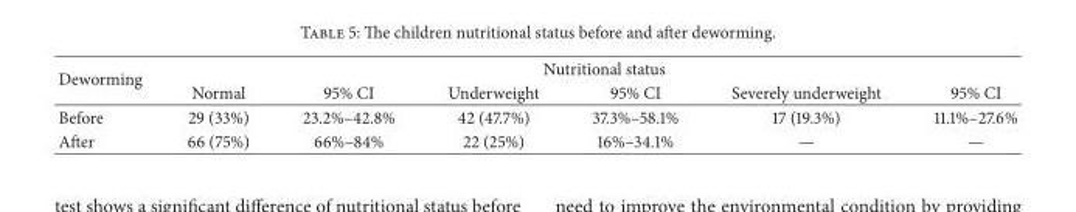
<table><thead><tr><td rowspan="2">Deworming</td><td colspan="6">Nutritional status</td></tr><tr><td>Normal</td><td>95% CI</td><td>Underweight</td><td>95% CI</td><td>Severely underweight</td><td>95% CI</td></tr></thead><tbody><tr><td>Before</td><td>29 (33%)</td><td>23.2%–42.8%</td><td>42 (47.7%)</td><td>37.3%–58.1%</td><td>17 (19.3%)</td><td>11.1%–27.6%</td></tr><tr><td>After</td><td>66 (75%)</td><td>66%–84%</td><td>22 (25%)</td><td>16%–34.1%</td><td>—</td><td>—</td></tr></tbody></table>